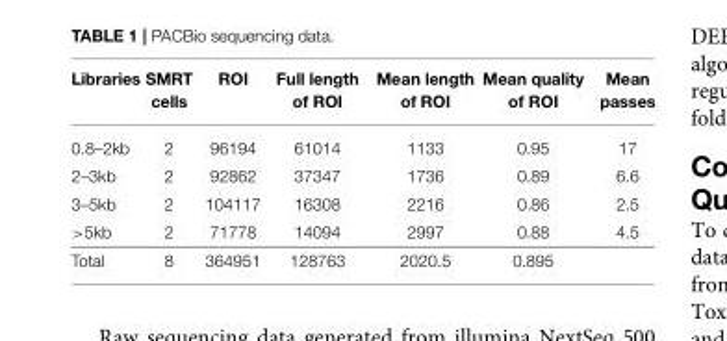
<table><thead><tr><td>Libraries</td><td>SMRT cells</td><td>ROI</td><td>Full length of ROI</td><td>Mean length of ROI</td><td>Mean quality of ROI</td><td>Mean passes</td></tr></thead><tbody><tr><td>0.8–2kb</td><td>2</td><td>96194</td><td>61014</td><td>1133</td><td>0.95</td><td>17</td></tr><tr><td>2–3kb</td><td>2</td><td>92862</td><td>37347</td><td>1736</td><td>0.89</td><td>6.6</td></tr><tr><td>3–5kb</td><td>2</td><td>104117</td><td>16308</td><td>2216</td><td>0.86</td><td>2.5</td></tr><tr><td>&gt;5kb</td><td>2</td><td>71778</td><td>14094</td><td>2997</td><td>0.88</td><td>4.5</td></tr><tr><td>Total</td><td>8</td><td>364951</td><td>128763</td><td>2020.5</td><td>0.895</td><td></td></tr></tbody></table>